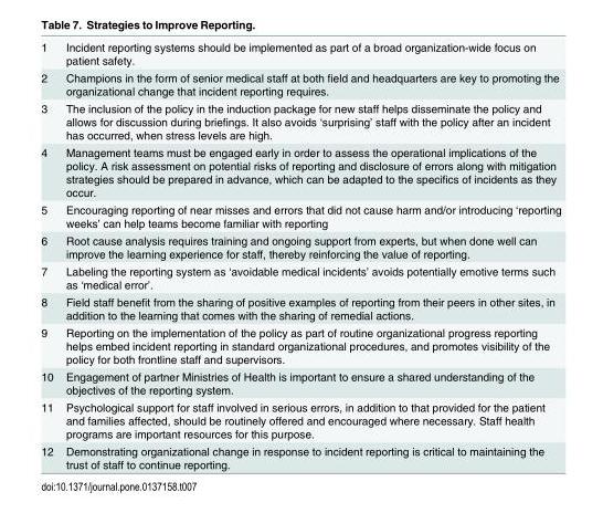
<table><tbody><tr><td>1</td><td>Incident reporting systems should be implemented as part of a broad organization-wide focus on patient safety.</td></tr><tr><td>2</td><td>Champions in the form of senior medical staff at both field and headquarters are key to promoting the organizational change that incident reporting requires.</td></tr><tr><td>3</td><td>The inclusion of the policy in the induction package for new staff helps disseminate the policy and allows for discussion during briefings. It also avoids ‘surprising’ staff with the policy after an incident has occurred, when stress levels are high.</td></tr><tr><td>4</td><td>Management teams must be engaged early in order to assess the operational implications of the policy. A risk assessment on potential risks of reporting and disclosure of errors along with mitigation strategies should be prepared in advance, which can be adapted to the specifics of incidents as they occur.</td></tr><tr><td>5</td><td>Encouraging reporting of near misses and errors that did not cause harm and/or introducing ‘reporting weeks’ can help teams become familiar with reporting</td></tr><tr><td>6</td><td>Root cause analysis requires training and ongoing support from experts, but when done well can improve the learning experience for staff, thereby reinforcing the value of reporting.</td></tr><tr><td>7</td><td>Labeling the reporting system as ‘avoidable medical incidents’ avoids potentially emotive terms such as ‘medical error’.</td></tr><tr><td>8</td><td>Field staff benefit from the sharing of positive examples of reporting from their peers in other sites, in addition to the learning that comes with the sharing of remedial actions.</td></tr><tr><td>9</td><td>Reporting on the implementation of the policy as part of routine organizational progress reporting helps embed incident reporting in standard organizational procedures, and promotes visibility of the policy for both frontline staff and supervisors.</td></tr><tr><td>10</td><td>Engagement of partner Ministries of Health is important to ensure a shared understanding of the objectives of the reporting system.</td></tr><tr><td>11</td><td>Psychological support for staff involved in serious errors, in addition to that provided for the patient and families affected, should be routinely offered and encouraged where necessary. Staff health programs are important resources for this purpose.</td></tr><tr><td>12</td><td>Demonstrating organizational change in response to incident reporting is critical to maintaining the trust of staff to continue reporting.</td></tr></tbody></table>